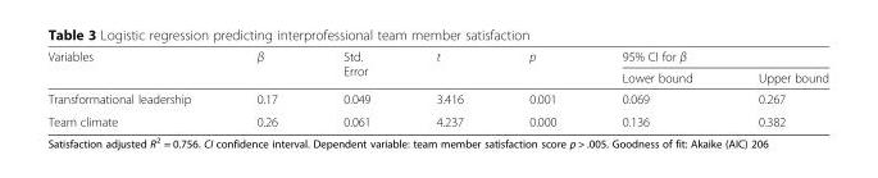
<table><thead><tr><td rowspan="2">Variables</td><td rowspan="2">β</td><td rowspan="2">Std. Error</td><td rowspan="2">t</td><td rowspan="2">p</td><td colspan="2">95% CI for β</td></tr><tr><td>Lower bound</td><td>Upper bound</td></tr></thead><tbody><tr><td>Transformational leadership</td><td>0.17</td><td>0.049</td><td>3.416</td><td>0.001</td><td>0.069</td><td>0.267</td></tr><tr><td>Team climate</td><td>0.26</td><td>0.061</td><td>4.237</td><td>0.000</td><td>0.136</td><td>0.382</td></tr></tbody></table>